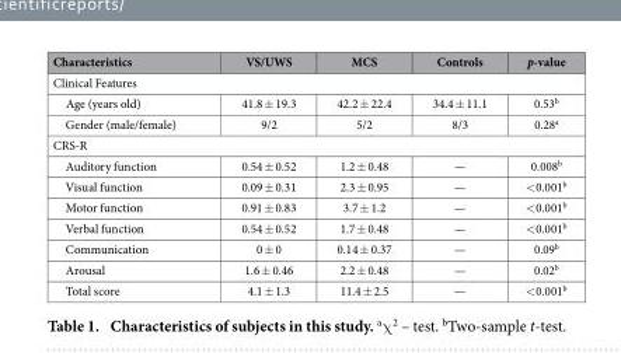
<table><thead><tr><td>Characteristics</td><td>VS/UWS</td><td>MCS</td><td>Controls</td><td>p-value</td></tr></thead><tbody><tr><td colspan="5">Clinical Features</td></tr><tr><td>Age (years old)</td><td>41.8 ± 19.3</td><td>42.2 ± 22.4</td><td>34.4 ± 11.1</td><td>0.53<sup>b</sup></td></tr><tr><td>Gender (male/female)</td><td>9/2</td><td>5/2</td><td>8/3</td><td>0.28<sup>a</sup></td></tr><tr><td colspan="5">CRS-R</td></tr><tr><td>Auditory function</td><td>0.54 ± 0.52</td><td>1.2 ± 0.48</td><td>—</td><td>0.008<sup>b</sup></td></tr><tr><td>Visual function</td><td>0.09 ± 0.31</td><td>2.3 ± 0.95</td><td>—</td><td>&lt; 0.001<sup>b</sup></td></tr><tr><td>Motor function</td><td>0.91 ± 0.83</td><td>3.7 ± 1.2</td><td>—</td><td>&lt; 0.001<sup>b</sup></td></tr><tr><td>Verbal function</td><td>0.54 ± 0.52</td><td>1.7 ± 0.48</td><td>—</td><td>&lt; 0.001<sup>b</sup></td></tr><tr><td>Communication</td><td>0 ± 0</td><td>0.14 ± 0.37</td><td>—</td><td>0.09<sup>b</sup></td></tr><tr><td>Arousal</td><td>1.6 ± 0.46</td><td>2.2 ± 0.48</td><td>—</td><td>0.02<sup>b</sup></td></tr><tr><td>Total score</td><td>4.1 ± 1.3</td><td>11.4 ± 2.5</td><td>—</td><td>&lt; 0.001<sup>b</sup></td></tr></tbody></table>